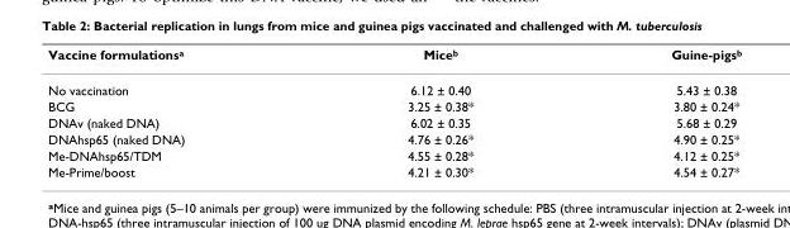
<table><thead><tr><td>Vaccine formulations<sup>a</sup></td><td>Mice<sup>b</sup></td><td>Guine-pigs<sup>b</sup></td></tr></thead><tbody><tr><td>No vaccination</td><td>6.12 ± 0.40</td><td>5.43 ± 0.38</td></tr><tr><td>BCG</td><td>3.25 ± 0.38*</td><td>3.80 ± 0.24*</td></tr><tr><td>DNAv (naked DNA)</td><td>6.02 ± 0.35</td><td>5.68 ± 0.29</td></tr><tr><td>DNAhsp65 (naked DNA)</td><td>4.76 ± 0.26*</td><td>4.90 ± 0.25*</td></tr><tr><td>Me-DNAhsp65/TDM</td><td>4.55 ± 0.28*</td><td>4.12 ± 0.25*</td></tr><tr><td>Me-Prime/boost</td><td>4.21 ± 0.30*</td><td>4.54 ± 0.27*</td></tr></tbody></table>